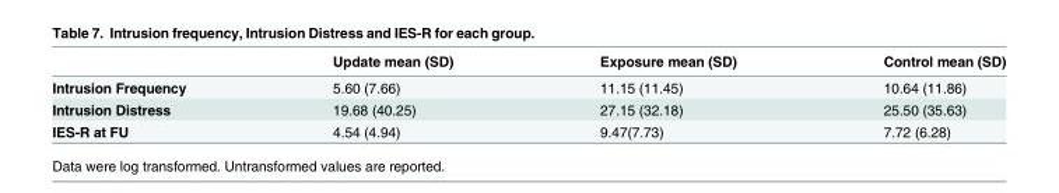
<table><thead><tr><td></td><td>Update mean (SD)</td><td>Exposure mean (SD)</td><td>Control mean (SD)</td></tr></thead><tbody><tr><td>Intrusion Frequency</td><td>5.60 (7.66)</td><td>11.15 (11.45)</td><td>10.64 (11.86)</td></tr><tr><td>Intrusion Distress</td><td>19.68 (40.25)</td><td>27.15 (32.18)</td><td>25.50 (35.63)</td></tr><tr><td>IES-R at FU</td><td>4.54 (4.94)</td><td>9.47(7.73)</td><td>7.72 (6.28)</td></tr></tbody></table>